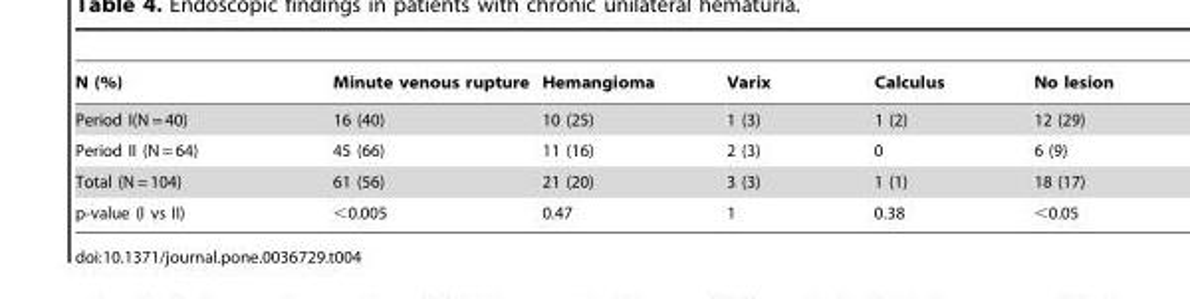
<table><thead><tr><td>N (%)</td><td>Minute venous rupture</td><td>Hemangioma</td><td>Varix</td><td>Calculus</td><td>No lesion</td></tr></thead><tbody><tr><td>Period I(N = 40)</td><td>16 (40)</td><td>10 (25)</td><td>1 (3)</td><td>1 (2)</td><td>12 (29)</td></tr><tr><td>Period II (N = 64)</td><td>45 (66)</td><td>11 (16)</td><td>2 (3)</td><td>0</td><td>6 (9)</td></tr><tr><td>Total (N = 104)</td><td>61 (56)</td><td>21 (20)</td><td>3 (3)</td><td>1 (1)</td><td>18 (17)</td></tr><tr><td>p-value (I vs II)</td><td>&lt;0.005</td><td>0.47</td><td>1</td><td>0.38</td><td>&lt;0.05</td></tr></tbody></table>